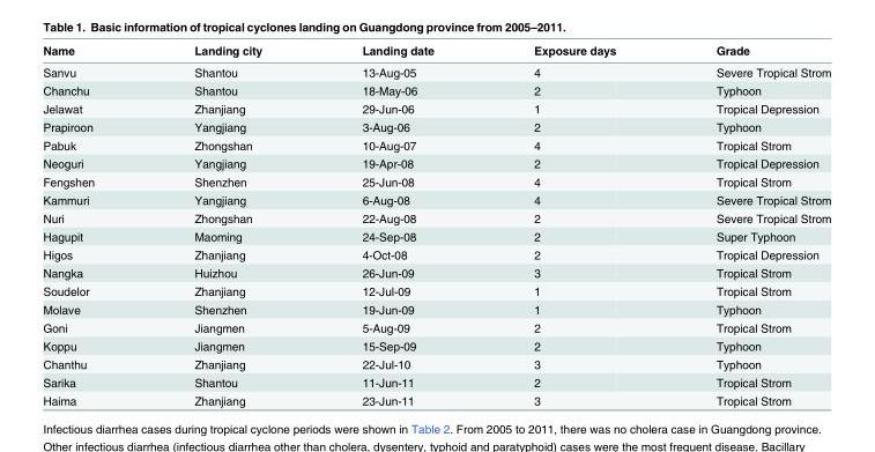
<table><thead><tr><td>Name</td><td>Landing city</td><td>Landing date</td><td>Exposure days</td><td>Grade</td></tr></thead><tbody><tr><td>Sanvu</td><td>Shantou</td><td>13-Aug-05</td><td>4</td><td>Severe Tropical Strom</td></tr><tr><td>Chanchu</td><td>Shantou</td><td>18-May-06</td><td>2</td><td>Typhoon</td></tr><tr><td>Jelawat</td><td>Zhanjiang</td><td>29-Jun-06</td><td>1</td><td>Tropical Depression</td></tr><tr><td>Prapiroon</td><td>Yangjiang</td><td>3-Aug-06</td><td>2</td><td>Typhoon</td></tr><tr><td>Pabuk</td><td>Zhongshan</td><td>10-Aug-07</td><td>4</td><td>Tropical Strom</td></tr><tr><td>Neoguri</td><td>Yangjiang</td><td>19-Apr-08</td><td>2</td><td>Tropical Depression</td></tr><tr><td>Fengshen</td><td>Shenzhen</td><td>25-Jun-08</td><td>4</td><td>Tropical Strom</td></tr><tr><td>Kammuri</td><td>Yangjiang</td><td>6-Aug-08</td><td>4</td><td>Severe Tropical Strom</td></tr><tr><td>Nuri</td><td>Zhongshan</td><td>22-Aug-08</td><td>2</td><td>Severe Tropical Strom</td></tr><tr><td>Hagupit</td><td>Maoming</td><td>24-Sep-08</td><td>2</td><td>Super Typhoon</td></tr><tr><td>Higos</td><td>Zhanjiang</td><td>4-Oct-08</td><td>2</td><td>Tropical Depression</td></tr><tr><td>Nangka</td><td>Huizhou</td><td>26-Jun-09</td><td>3</td><td>Tropical Strom</td></tr><tr><td>Soudelor</td><td>Zhanjiang</td><td>12-Jul-09</td><td>1</td><td>Tropical Strom</td></tr><tr><td>Molave</td><td>Shenzhen</td><td>19-Jun-09</td><td>1</td><td>Typhoon</td></tr><tr><td>Goni</td><td>Jiangmen</td><td>5-Aug-09</td><td>2</td><td>Tropical Strom</td></tr><tr><td>Koppu</td><td>Jiangmen</td><td>15-Sep-09</td><td>2</td><td>Typhoon</td></tr><tr><td>Chanthu</td><td>Zhanjiang</td><td>22-Jul-10</td><td>3</td><td>Typhoon</td></tr><tr><td>Sarika</td><td>Shantou</td><td>11-Jun-11</td><td>2</td><td>Tropical Strom</td></tr><tr><td>Haima</td><td>Zhanjiang</td><td>23-Jun-11</td><td>3</td><td>Tropical Strom</td></tr></tbody></table>